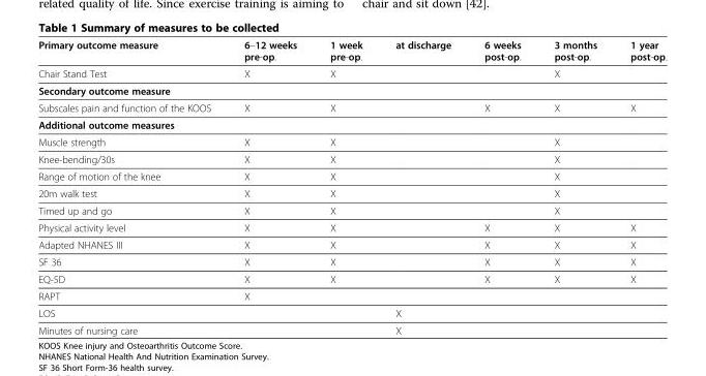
<table><thead><tr><td>Primary outcome measure</td><td>6–12 weeks pre-op.</td><td>1 week pre-op.</td><td>at discharge</td><td>6 weeks post-op.</td><td>3 months post-op.</td><td>1 year post-op.</td></tr></thead><tbody><tr><td>Chair Stand Test</td><td>X</td><td>X</td><td></td><td></td><td>X</td><td></td></tr><tr><td colspan="7">Secondary outcome measure</td></tr><tr><td>Subscales pain and function of the KOOS</td><td>X</td><td>X</td><td></td><td>X</td><td>X</td><td>X</td></tr><tr><td colspan="7">Additional outcome measures</td></tr><tr><td>Muscle strength</td><td>X</td><td>X</td><td></td><td></td><td>X</td><td></td></tr><tr><td>Knee-bending/30s</td><td>X</td><td>X</td><td></td><td></td><td>X</td><td></td></tr><tr><td>Range of motion of the knee</td><td>X</td><td>X</td><td></td><td></td><td>X</td><td></td></tr><tr><td>20m walk test</td><td>X</td><td>X</td><td></td><td></td><td>X</td><td></td></tr><tr><td>Timed up and go</td><td>X</td><td>X</td><td></td><td></td><td>X</td><td></td></tr><tr><td>Physical activity level</td><td>X</td><td>X</td><td></td><td>X</td><td>X</td><td>X</td></tr><tr><td>Adapted NHANES III</td><td>X</td><td>X</td><td></td><td>X</td><td>X</td><td>X</td></tr><tr><td>SF 36</td><td>X</td><td>X</td><td></td><td>X</td><td>X</td><td>X</td></tr><tr><td>EQ-5D</td><td>X</td><td>X</td><td></td><td>X</td><td>X</td><td>X</td></tr><tr><td>RAPT</td><td>X</td><td></td><td></td><td></td><td></td><td></td></tr><tr><td>LOS</td><td></td><td></td><td>X</td><td></td><td></td><td></td></tr><tr><td>Minutes of nursing care</td><td></td><td></td><td>X</td><td></td><td></td><td></td></tr></tbody></table>